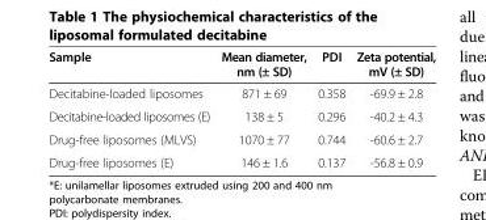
<table><thead><tr><td>Sample</td><td>Mean diameter, nm (± SD)</td><td>PDI</td><td>Zeta potential, mV (± SD)</td></tr></thead><tbody><tr><td>Decitabine-loaded liposomes</td><td>871 ± 69</td><td>0.358</td><td>-69.9 ± 2.8</td></tr><tr><td>Decitabine-loaded liposomes (E)</td><td>138 ± 5</td><td>0.296</td><td>-40.2 ± 4.3</td></tr><tr><td>Drug-free liposomes (MLVS)</td><td>1070 ± 77</td><td>0.744</td><td>-60.6 ± 2.7</td></tr><tr><td>Drug-free liposomes (E)</td><td>146 ± 1.6</td><td>0.137</td><td>-56.8 ± 0.9</td></tr></tbody></table>